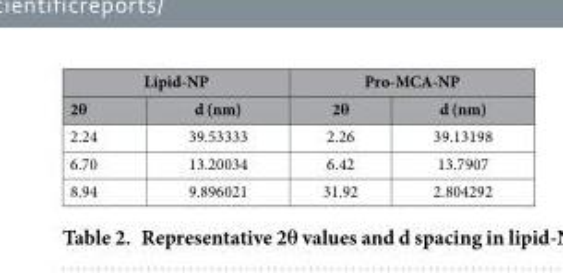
<table><thead><tr><td colspan="2">Lipid-NP</td><td colspan="2">Pro-MCA-NP</td></tr><tr><td>2θ</td><td>d (nm)</td><td>2θ</td><td>d (nm)</td></tr></thead><tbody><tr><td>2.24</td><td>39.53333</td><td>2.26</td><td>39.13198</td></tr><tr><td>6.70</td><td>13.20034</td><td>6.42</td><td>13.7907</td></tr><tr><td>8.94</td><td>9.896021</td><td>31.92</td><td>2.804292</td></tr></tbody></table>